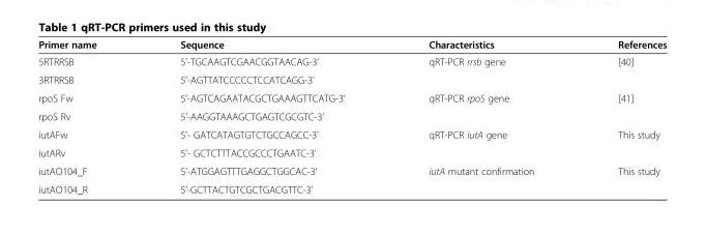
<table><thead><tr><td>Primer name</td><td>Sequence</td><td>Characteristics</td><td>References</td></tr></thead><tbody><tr><td>5RTRRSB</td><td>5’-TGCAAGTCGAACGGTAACAG-3’</td><td rowspan="2">qRT-PCR rrsb gene</td><td rowspan="2">[40]</td></tr><tr><td>3RTRRSB</td><td>5’-AGTTATCCCCCTCCATCAGG-3’</td></tr><tr><td>rpoS Fw</td><td>5’-AGTCAGAATACGCTGAAAGTTCATG-3’</td><td rowspan="2">qRT-PCR rpoS gene</td><td rowspan="2">[41]</td></tr><tr><td>rpoS Rv</td><td>5’-AAGGTAAAGCTGAGTCGCGTC-3’</td></tr><tr><td>iutAFw</td><td>5’- GATCATAGTGTCTGCCAGCC-3’</td><td rowspan="2">qRT-PCR iutA gene</td><td rowspan="2">This study</td></tr><tr><td>iutARv</td><td>5’- GCTCTTTACCGCCCTGAATC-3’</td></tr><tr><td>iutAO104_F</td><td>5’-ATGGAGTTTGAGGCTGGCAC-3’</td><td>iutA mutant confirmation</td><td>This study</td></tr><tr><td>iutAO104_R</td><td>5’-GCTTACTGTCGCTGACGTTC-3’</td><td></td><td></td></tr></tbody></table>